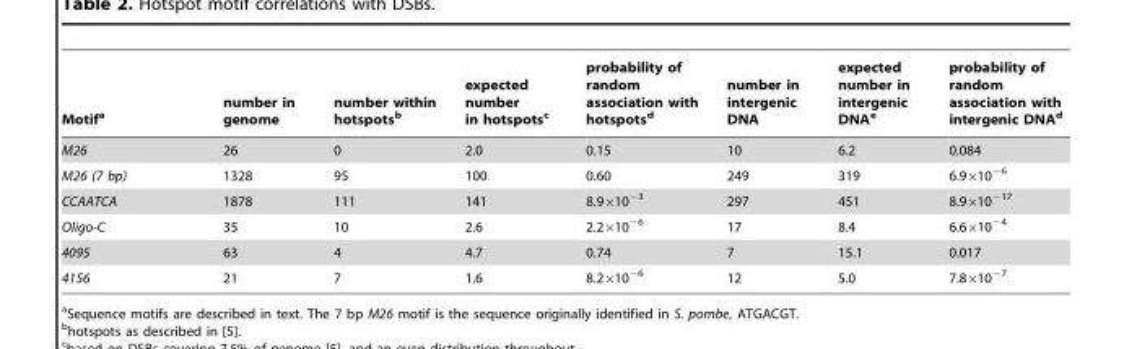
<table><thead><tr><td>Motif<sup>a</sup></td><td>number in genome</td><td>number within hotspots<sup>b</sup></td><td>expected number in hotspots<sup>c</sup></td><td>probability of random association with hotspots<sup>d</sup></td><td>number in intergenic DNA</td><td>expected number in intergenic DNA<sup>e</sup></td><td>probability of random association with intergenic DNA<sup>d</sup></td></tr></thead><tbody><tr><td>M26</td><td>26</td><td>0</td><td>2.0</td><td>0.15</td><td>10</td><td>6.2</td><td>0.084</td></tr><tr><td>M26 (7 bp)</td><td>1328</td><td>95</td><td>100</td><td>0.60</td><td>249</td><td>319</td><td>6.9×10<sup>−6</sup></td></tr><tr><td>CCAATCA</td><td>1878</td><td>111</td><td>141</td><td>8.9×10<sup>−3</sup></td><td>297</td><td>451</td><td>8.9×10<sup>−17</sup></td></tr><tr><td>Oligo-C</td><td>35</td><td>10</td><td>2.6</td><td>2.2×10<sup>−6</sup></td><td>17</td><td>8.4</td><td>6.6×10<sup>−4</sup></td></tr><tr><td>4095</td><td>63</td><td>4</td><td>4.7</td><td>0.74</td><td>7</td><td>15.1</td><td>0.017</td></tr><tr><td>4156</td><td>21</td><td>7</td><td>1.6</td><td>8.2×10<sup>−6</sup></td><td>12</td><td>5.0</td><td>7.8×10<sup>−7</sup></td></tr></tbody></table>